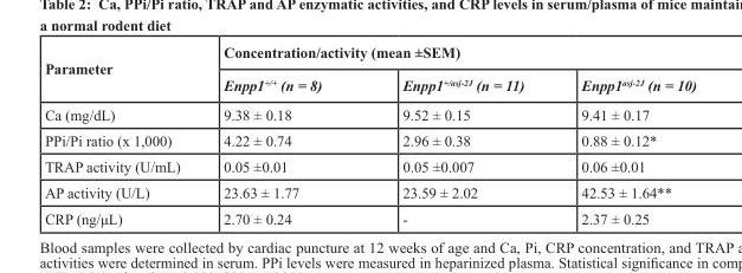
<table><thead><tr><td rowspan="2">Parameter</td><td colspan="3">Concentration/activity (mean ±SEM)</td></tr><tr><td>Enpp1<sup>+/+</sup> (n = 8)</td><td>Enpp1<sup>+/asj-2J</sup> (n = 11)</td><td>Enpp1<sup>asj-2J</sup> (n = 10)</td></tr></thead><tbody><tr><td>Ca (mg/dL)</td><td>9.38 ± 0.18</td><td>9.52 ± 0.15</td><td>9.41 ± 0.17</td></tr><tr><td>PPi/Pi ratio (x 1,000)</td><td>4.22 ± 0.74</td><td>2.96 ± 0.38</td><td>0.88 ± 0.12*</td></tr><tr><td>TRAP activity (U/mL)</td><td>0.05 ±0.01</td><td>0.05 ±0.007</td><td>0.06 ±0.01</td></tr><tr><td>AP activity (U/L)</td><td>23.63 ± 1.77</td><td>23.59 ± 2.02</td><td>42.53 ± 1.64**</td></tr><tr><td>CRP (ng/μL)</td><td>2.70 ± 0.24</td><td>-</td><td>2.37 ± 0.25</td></tr></tbody></table>